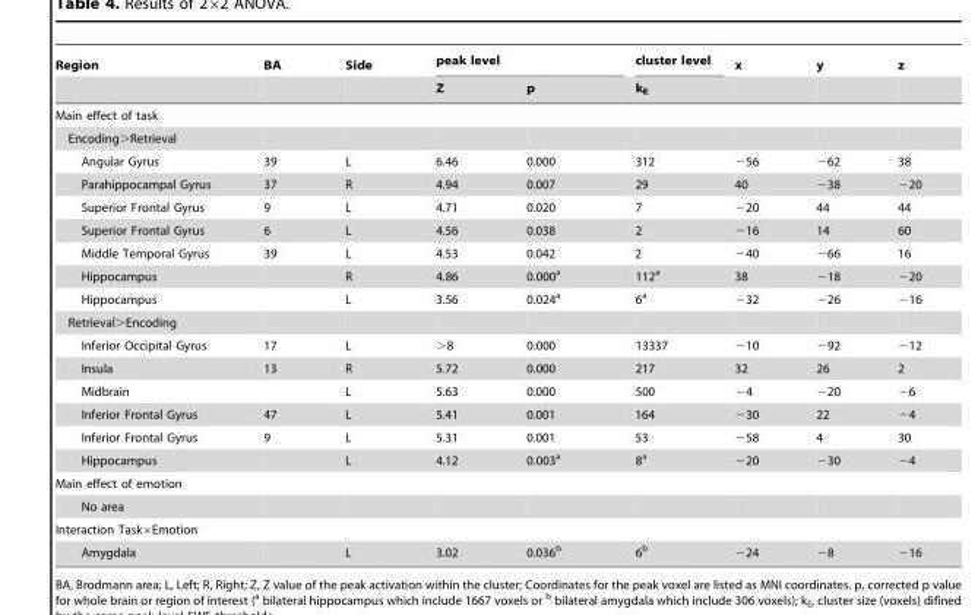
<table><thead><tr><td rowspan="2">Region</td><td rowspan="2">BA</td><td rowspan="2">Side</td><td colspan="2">peak level</td><td rowspan="2">cluster level k<sub>E</sub></td><td rowspan="2">x</td><td rowspan="2">y</td><td rowspan="2">z</td></tr><tr><td>Z</td><td>p</td></tr></thead><tbody><tr><td colspan="9">Main effect of task</td></tr><tr><td colspan="9">Encoding&gt;Retrieval</td></tr><tr><td>Angular Gyrus</td><td>39</td><td>L</td><td>6.46</td><td>0.000</td><td>312</td><td>−56</td><td>−62</td><td>38</td></tr><tr><td>Parahippocampal Gyrus</td><td>37</td><td>R</td><td>4.94</td><td>0.007</td><td>29</td><td>40</td><td>−38</td><td>−20</td></tr><tr><td>Superior Frontal Gyrus</td><td>9</td><td>L</td><td>4.71</td><td>0.020</td><td>7</td><td>−20</td><td>44</td><td>44</td></tr><tr><td>Superior Frontal Gyrus</td><td>6</td><td>L</td><td>4.56</td><td>0.038</td><td>2</td><td>−16</td><td>14</td><td>60</td></tr><tr><td>Middle Temporal Gyrus</td><td>39</td><td>L</td><td>4.53</td><td>0.042</td><td>2</td><td>−40</td><td>−66</td><td>16</td></tr><tr><td>Hippocampus</td><td></td><td>R</td><td>4.86</td><td>0.000<sup>a</sup></td><td>112<sup>a</sup></td><td>38</td><td>−18</td><td>−20</td></tr><tr><td>Hippocampus</td><td></td><td>L</td><td>3.56</td><td>0.024<sup>a</sup></td><td>6<sup>a</sup></td><td>−32</td><td>−26</td><td>−16</td></tr><tr><td colspan="9">Retrieval&gt;Encoding</td></tr><tr><td>Inferior Occipital Gyrus</td><td>17</td><td>L</td><td>&gt;8</td><td>0.000</td><td>13337</td><td>−10</td><td>−92</td><td>−12</td></tr><tr><td>Insula</td><td>13</td><td>R</td><td>5.72</td><td>0.000</td><td>217</td><td>32</td><td>26</td><td>2</td></tr><tr><td>Midbrain</td><td></td><td>L</td><td>5.63</td><td>0.000</td><td>500</td><td>−4</td><td>−20</td><td>−6</td></tr><tr><td>Inferior Frontal Gyrus</td><td>47</td><td>L</td><td>5.41</td><td>0.001</td><td>164</td><td>−30</td><td>22</td><td>−4</td></tr><tr><td>Inferior Frontal Gyrus</td><td>9</td><td>L</td><td>5.31</td><td>0.001</td><td>53</td><td>−58</td><td>4</td><td>30</td></tr><tr><td>Hippocampus</td><td></td><td>L</td><td>4.12</td><td>0.003<sup>a</sup></td><td>8<sup>a</sup></td><td>−20</td><td>−30</td><td>−4</td></tr><tr><td colspan="9">Main effect of emotion</td></tr><tr><td colspan="9">No area</td></tr><tr><td colspan="9">Interaction Task×Emotion</td></tr><tr><td>Amygdala</td><td></td><td>L</td><td>3.02</td><td>0.036<sup>b</sup></td><td>6<sup>b</sup></td><td>−24</td><td>−8</td><td>−16</td></tr></tbody></table>